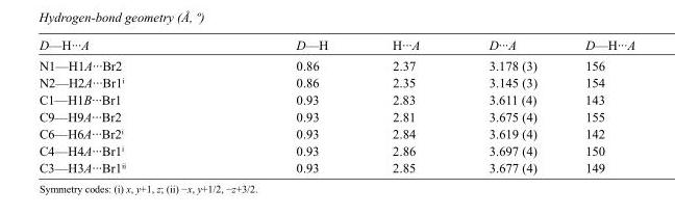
<table><tbody><tr><td>D—H···A</td><td>D—H</td><td>H···A</td><td>D···A</td><td>D—H···A</td></tr><tr><td>N1—H1A···Br2</td><td>0.86</td><td>2.37</td><td>3.178 (3)</td><td>156</td></tr><tr><td>N2—H2A···Br1<sup>i</sup></td><td>0.86</td><td>2.35</td><td>3.145 (3)</td><td>154</td></tr><tr><td>C1—H1B···Br1</td><td>0.93</td><td>2.83</td><td>3.611 (4)</td><td>143</td></tr><tr><td>C9—H9A···Br2</td><td>0.93</td><td>2.81</td><td>3.675 (4)</td><td>155</td></tr><tr><td>C6—H6A···Br2<sup>i</sup></td><td>0.93</td><td>2.84</td><td>3.619 (4)</td><td>142</td></tr><tr><td>C4—H4A···Br1<sup>i</sup></td><td>0.93</td><td>2.86</td><td>3.697 (4)</td><td>150</td></tr><tr><td>C3—H3A···Br1<sup>ii</sup></td><td>0.93</td><td>2.85</td><td>3.677 (4)</td><td>149</td></tr></tbody></table>